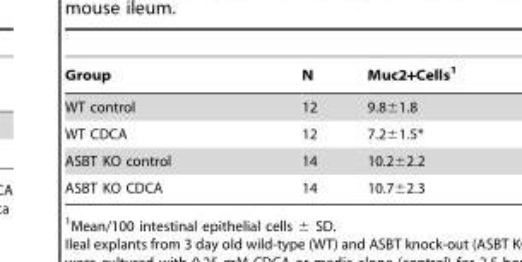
<table><thead><tr><td>Group</td><td>N</td><td>Muc2+Cells<sup>1</sup></td></tr></thead><tbody><tr><td>WT control</td><td>12</td><td>9.8±1.8</td></tr><tr><td>WT CDCA</td><td>12</td><td>7.2±1.5*</td></tr><tr><td>ASBT KO control</td><td>14</td><td>10.2±2.2</td></tr><tr><td>ASBT KO CDCA</td><td>14</td><td>10.7±2.3</td></tr></tbody></table>